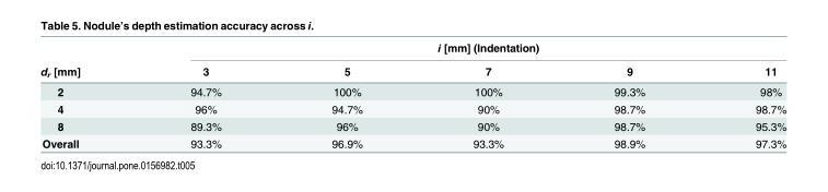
<table><thead><tr><td rowspan="2">d<sub>r</sub> [mm]</td><td colspan="5">i [mm] (Indentation)</td></tr><tr><td>3</td><td>5</td><td>7</td><td>9</td><td>11</td></tr></thead><tbody><tr><td>2</td><td>94.7%</td><td>100%</td><td>100%</td><td>99.3%</td><td>98%</td></tr><tr><td>4</td><td>96%</td><td>94.7%</td><td>90%</td><td>98.7%</td><td>98.7%</td></tr><tr><td>8</td><td>89.3%</td><td>96%</td><td>90%</td><td>98.7%</td><td>95.3%</td></tr><tr><td>Overall</td><td>93.3%</td><td>96.9%</td><td>93.3%</td><td>98.9%</td><td>97.3%</td></tr></tbody></table>